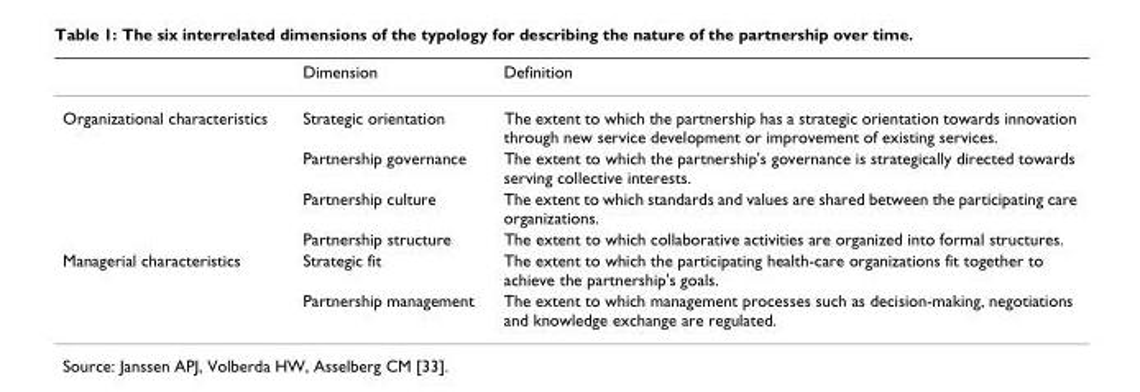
<table><thead><tr><td></td><td>Dimension</td><td>Definition</td></tr></thead><tbody><tr><td rowspan="4">Organizational characteristics</td><td>Strategic orientation</td><td>The extent to which the partnership has a strategic orientation towards innovation through new service development or improvement of existing services.</td></tr><tr><td>Partnership governance</td><td>The extent to which the partnership&#x27;s governance is strategically directed towards serving collective interests.</td></tr><tr><td>Partnership culture</td><td>The extent to which standards and values are shared between the participating care organizations.</td></tr><tr><td>Partnership structure</td><td>The extent to which collaborative activities are organized into formal structures.</td></tr><tr><td rowspan="2">Managerial characteristics</td><td>Strategic fit</td><td>The extent to which the participating health-care organizations fit together to achieve the partnership&#x27;s goals.</td></tr><tr><td>Partnership management</td><td>The extent to which management processes such as decision-making, negotiations and knowledge exchange are regulated.</td></tr></tbody></table>